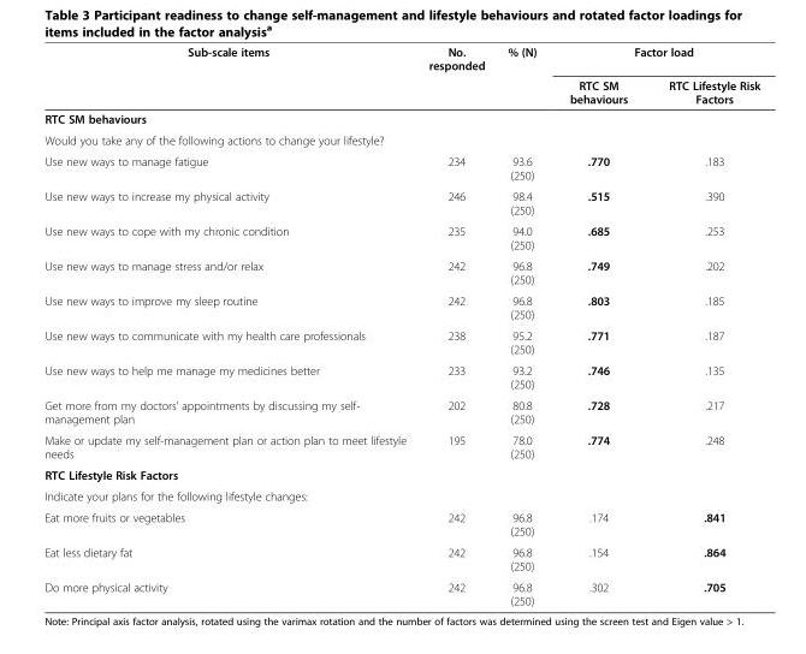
<table><thead><tr><td rowspan="2">Sub-scale items</td><td rowspan="2">No. responded</td><td rowspan="2">% (N)</td><td colspan="2">Factor load</td></tr><tr><td>RTC SM behaviours</td><td>RTC Lifestyle Risk Factors</td></tr></thead><tbody><tr><td colspan="5">RTC SM behaviours</td></tr><tr><td colspan="5">Would you take any of the following actions to change your lifestyle?</td></tr><tr><td>Use new ways to manage fatigue</td><td>234</td><td>93.6 (250)</td><td>.770</td><td>.183</td></tr><tr><td>Use new ways to increase my physical activity</td><td>246</td><td>98.4 (250)</td><td>.515</td><td>.390</td></tr><tr><td>Use new ways to cope with my chronic condition</td><td>235</td><td>94.0 (250)</td><td>.685</td><td>.253</td></tr><tr><td>Use new ways to manage stress and/or relax</td><td>242</td><td>96.8 (250)</td><td>.749</td><td>.202</td></tr><tr><td>Use new ways to improve my sleep routine</td><td>242</td><td>96.8 (250)</td><td>.803</td><td>.185</td></tr><tr><td>Use new ways to communicate with my health care professionals</td><td>238</td><td>95.2 (250)</td><td>.771</td><td>.187</td></tr><tr><td>Use new ways to help me manage my medicines better</td><td>233</td><td>93.2 (250)</td><td>.746</td><td>.135</td></tr><tr><td>Get more from my doctors’ appointments by discussing my self- management plan</td><td>202</td><td>80.8 (250)</td><td>.728</td><td>.217</td></tr><tr><td>Make or update my self-management plan or action plan to meet lifestyle needs</td><td>195</td><td>78.0 (250)</td><td>.774</td><td>.248</td></tr><tr><td colspan="5">RTC Lifestyle Risk Factors</td></tr><tr><td colspan="5">Indicate your plans for the following lifestyle changes:</td></tr><tr><td>Eat more fruits or vegetables</td><td>242</td><td>96.8 (250)</td><td>.174</td><td>.841</td></tr><tr><td>Eat less dietary fat</td><td>242</td><td>96.8 (250)</td><td>.154</td><td>.864</td></tr><tr><td>Do more physical activity</td><td>242</td><td>96.8 (250)</td><td>.302</td><td>.705</td></tr></tbody></table>